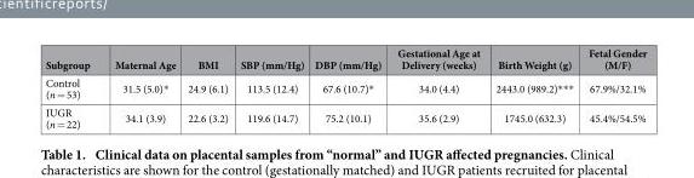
<table><thead><tr><td>Subgroup</td><td>Maternal Age</td><td>BMI</td><td>SBP (mm/Hg)</td><td>DBP (mm/Hg)</td><td>Gestational Age at Delivery (weeks)</td><td>Birth Weight (g)</td><td>Fetal Gender (M/F)</td></tr></thead><tbody><tr><td>Control (n = 53)</td><td>31.5 (5.0)*</td><td>24.9 (6.1)</td><td>113.5 (12.4)</td><td>67.6 (10.7)*</td><td>34.0 (4.4)</td><td>2443.0 (989.2)* * *</td><td>67.9%/32.1%</td></tr><tr><td>IUGR (n = 22)</td><td>34.1 (3.9)</td><td>22.6 (3.2)</td><td>119.6 (14.7)</td><td>75.2 (10.1)</td><td>35.6 (2.9)</td><td>1745.0 (632.3)</td><td>45.4%/54.5%</td></tr></tbody></table>